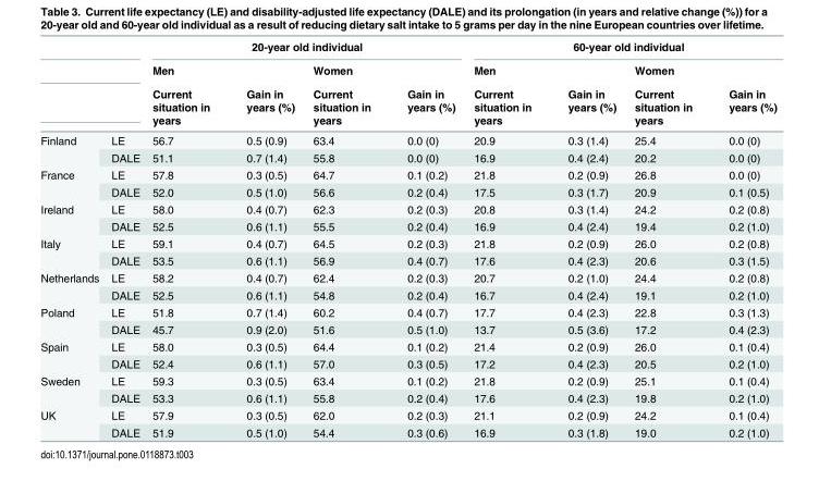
<table><thead><tr><td rowspan="3"></td><td rowspan="3"></td><td colspan="4">20-year old individual</td><td colspan="4">60-year old individual</td></tr><tr><td rowspan="2">Men Current situation in years</td><td rowspan="2">Gain in years (%)</td><td rowspan="2">Women Current situation in years</td><td rowspan="2">Gain in years (%)</td><td rowspan="2">Men Current situation in years</td><td rowspan="2">Gain in years (%)</td><td rowspan="2">Women Current situation in years</td><td rowspan="2">Gain in years (%)</td></tr><tr></tr></thead><tbody><tr><td rowspan="2">Finland</td><td>LE</td><td>56.7</td><td>0.5 (0.9)</td><td>63.4</td><td>0.0 (0)</td><td>20.9</td><td>0.3 (1.4)</td><td>25.4</td><td>0.0 (0)</td></tr><tr><td>DALE</td><td>51.1</td><td>0.7 (1.4)</td><td>55.8</td><td>0.0 (0)</td><td>16.9</td><td>0.4 (2.4)</td><td>20.2</td><td>0.0 (0)</td></tr><tr><td rowspan="2">France</td><td>LE</td><td>57.8</td><td>0.3 (0.5)</td><td>64.7</td><td>0.1 (0.2)</td><td>21.8</td><td>0.2 (0.9)</td><td>26.8</td><td>0.0 (0)</td></tr><tr><td>DALE</td><td>52.0</td><td>0.5 (1.0)</td><td>56.6</td><td>0.2 (0.4)</td><td>17.5</td><td>0.3 (1.7)</td><td>20.9</td><td>0.1 (0.5)</td></tr><tr><td rowspan="2">Ireland</td><td>LE</td><td>58.0</td><td>0.4 (0.7)</td><td>62.3</td><td>0.2 (0.3)</td><td>20.8</td><td>0.3 (1.4)</td><td>24.2</td><td>0.2 (0.8)</td></tr><tr><td>DALE</td><td>52.5</td><td>0.6 (1.1)</td><td>55.5</td><td>0.2 (0.4)</td><td>16.9</td><td>0.4 (2.4)</td><td>19.4</td><td>0.2 (1.0)</td></tr><tr><td rowspan="2">Italy</td><td>LE</td><td>59.1</td><td>0.4 (0.7)</td><td>64.5</td><td>0.2 (0.3)</td><td>21.8</td><td>0.2 (0.9)</td><td>26.0</td><td>0.2 (0.8)</td></tr><tr><td>DALE</td><td>53.5</td><td>0.6 (1.1)</td><td>56.9</td><td>0.4 (0.7)</td><td>17.6</td><td>0.4 (2.3)</td><td>20.6</td><td>0.3 (1.5)</td></tr><tr><td rowspan="2">Netherlands</td><td>LE</td><td>58.2</td><td>0.4 (0.7)</td><td>62.4</td><td>0.2 (0.3)</td><td>20.7</td><td>0.2 (1.0)</td><td>24.4</td><td>0.2 (0.8)</td></tr><tr><td>DALE</td><td>52.5</td><td>0.6 (1.1)</td><td>54.8</td><td>0.2 (0.4)</td><td>16.7</td><td>0.4 (2.4)</td><td>19.1</td><td>0.2 (1.0)</td></tr><tr><td rowspan="2">Poland</td><td>LE</td><td>51.8</td><td>0.7 (1.4)</td><td>60.2</td><td>0.4 (0.7)</td><td>17.7</td><td>0.4 (2.3)</td><td>22.8</td><td>0.3 (1.3)</td></tr><tr><td>DALE</td><td>45.7</td><td>0.9 (2.0)</td><td>51.6</td><td>0.5 (1.0)</td><td>13.7</td><td>0.5 (3.6)</td><td>17.2</td><td>0.4 (2.3)</td></tr><tr><td rowspan="2">Spain</td><td>LE</td><td>58.0</td><td>0.3 (0.5)</td><td>64.4</td><td>0.1 (0.2)</td><td>21.4</td><td>0.2 (0.9)</td><td>26.0</td><td>0.1 (0.4)</td></tr><tr><td>DALE</td><td>52.4</td><td>0.6 (1.1)</td><td>57.0</td><td>0.3 (0.5)</td><td>17.2</td><td>0.4 (2.3)</td><td>20.5</td><td>0.2 (1.0)</td></tr><tr><td rowspan="2">Sweden</td><td>LE</td><td>59.3</td><td>0.3 (0.5)</td><td>63.4</td><td>0.1 (0.2)</td><td>21.8</td><td>0.2 (0.9)</td><td>25.1</td><td>0.1 (0.4)</td></tr><tr><td>DALE</td><td>53.3</td><td>0.6 (1.1)</td><td>55.8</td><td>0.2 (0.4)</td><td>17.6</td><td>0.4 (2.3)</td><td>19.8</td><td>0.2 (1.0)</td></tr><tr><td rowspan="2">UK</td><td>LE</td><td>57.9</td><td>0.3 (0.5)</td><td>62.0</td><td>0.2 (0.3)</td><td>21.1</td><td>0.2 (0.9)</td><td>24.2</td><td>0.1 (0.4)</td></tr><tr><td>DALE</td><td>51.9</td><td>0.5 (1.0)</td><td>54.4</td><td>0.3 (0.6)</td><td>16.9</td><td>0.3 (1.8)</td><td>19.0</td><td>0.2 (1.0)</td></tr></tbody></table>